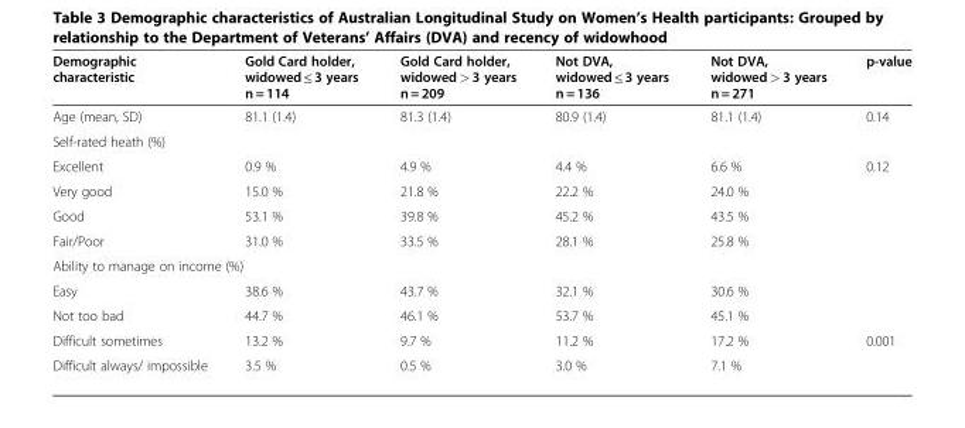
<table><thead><tr><td>Demographic characteristic</td><td>Gold Card holder, widowed ≤ 3 years n = 114</td><td>Gold Card holder, widowed &gt; 3 years n = 209</td><td>Not DVA, widowed ≤ 3 years n = 136</td><td>Not DVA, widowed &gt; 3 years n = 271</td><td>p-value</td></tr></thead><tbody><tr><td>Age (mean, SD)</td><td>81.1 (1.4)</td><td>81.3 (1.4)</td><td>80.9 (1.4)</td><td>81.1 (1.4)</td><td>0.14</td></tr><tr><td colspan="6">Self-rated heath (%)</td></tr><tr><td>Excellent</td><td>0.9 %</td><td>4.9 %</td><td>4.4 %</td><td>6.6 %</td><td>0.12</td></tr><tr><td>Very good</td><td>15.0 %</td><td>21.8 %</td><td>22.2 %</td><td>24.0 %</td><td></td></tr><tr><td>Good</td><td>53.1 %</td><td>39.8 %</td><td>45.2 %</td><td>43.5 %</td><td></td></tr><tr><td>Fair/Poor</td><td>31.0 %</td><td>33.5 %</td><td>28.1 %</td><td>25.8 %</td><td></td></tr><tr><td colspan="6">Ability to manage on income (%)</td></tr><tr><td>Easy</td><td>38.6 %</td><td>43.7 %</td><td>32.1 %</td><td>30.6 %</td><td></td></tr><tr><td>Not too bad</td><td>44.7 %</td><td>46.1 %</td><td>53.7 %</td><td>45.1 %</td><td></td></tr><tr><td>Difficult sometimes</td><td>13.2 %</td><td>9.7 %</td><td>11.2 %</td><td>17.2 %</td><td>0.001</td></tr><tr><td>Difficult always/ impossible</td><td>3.5 %</td><td>0.5 %</td><td>3.0 %</td><td>7.1 %</td><td></td></tr></tbody></table>